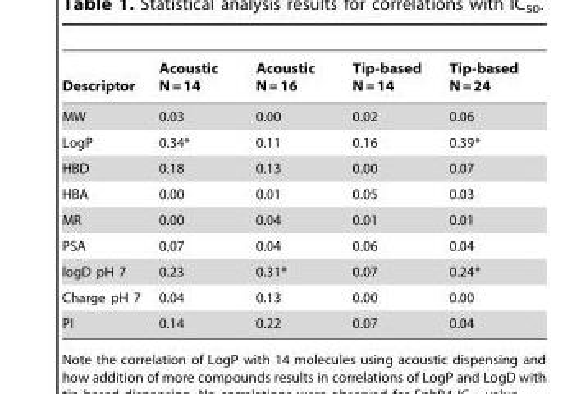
<table><thead><tr><td>Descriptor</td><td>Acoustic N = 14</td><td>Acoustic N = 16</td><td>Tip-based N = 14</td><td>Tip-based N = 24</td></tr></thead><tbody><tr><td>MW</td><td>0.03</td><td>0.00</td><td>0.02</td><td>0.06</td></tr><tr><td>LogP</td><td>0.34*</td><td>0.11</td><td>0.16</td><td>0.39*</td></tr><tr><td>HBD</td><td>0.18</td><td>0.13</td><td>0.00</td><td>0.07</td></tr><tr><td>HBA</td><td>0.00</td><td>0.01</td><td>0.05</td><td>0.03</td></tr><tr><td>MR</td><td>0.00</td><td>0.04</td><td>0.01</td><td>0.01</td></tr><tr><td>PSA</td><td>0.07</td><td>0.04</td><td>0.06</td><td>0.04</td></tr><tr><td>logD pH 7</td><td>0.23</td><td>0.31*</td><td>0.07</td><td>0.24*</td></tr><tr><td>Charge pH 7</td><td>0.04</td><td>0.13</td><td>0.00</td><td>0.00</td></tr><tr><td>PI</td><td>0.14</td><td>0.22</td><td>0.07</td><td>0.04</td></tr></tbody></table>